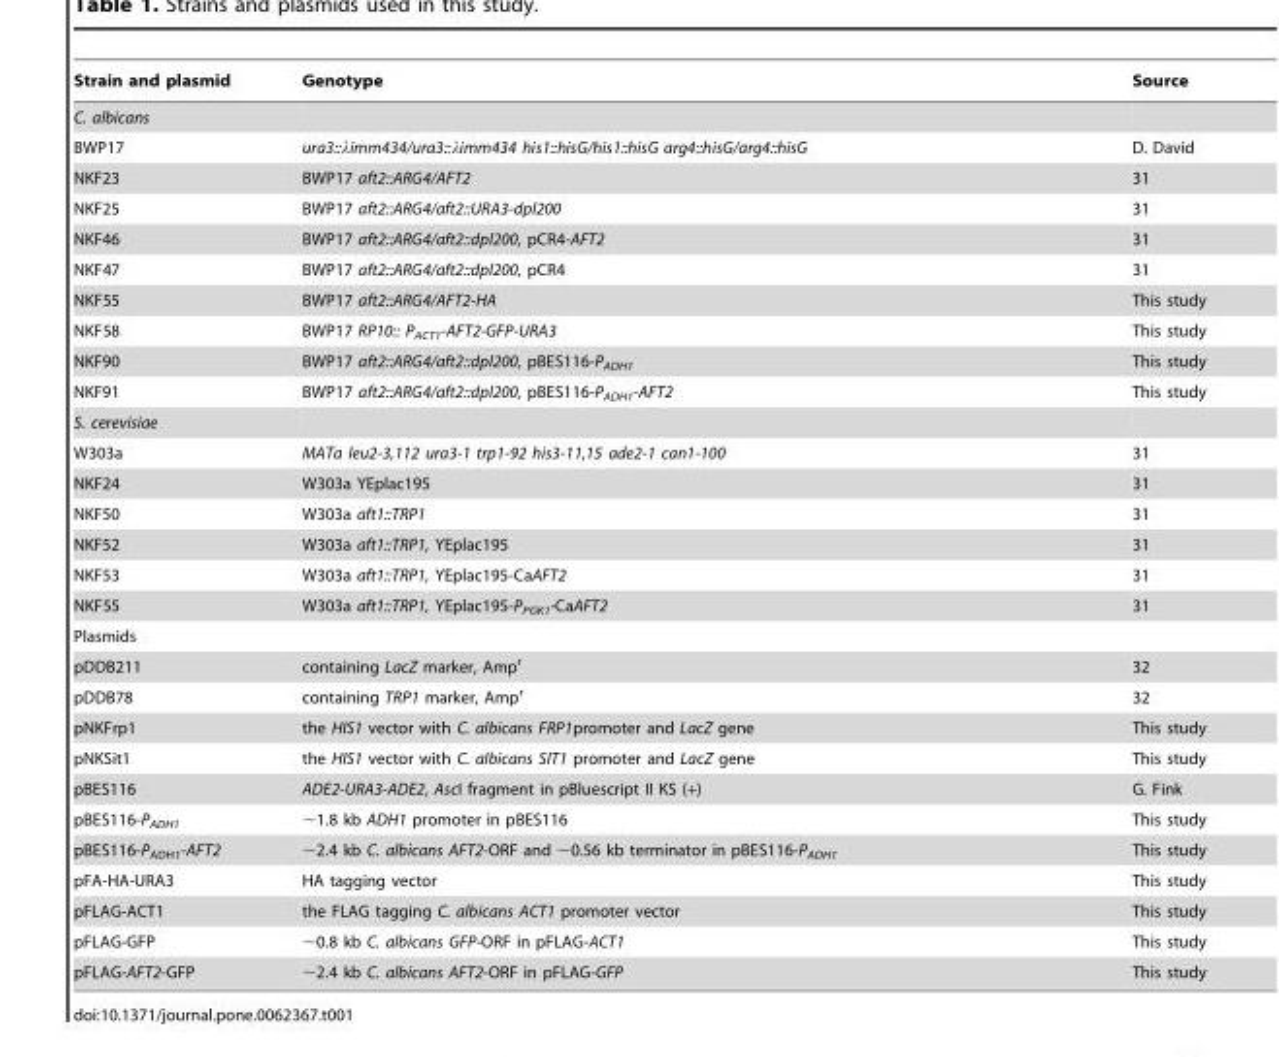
<table><thead><tr><td>Strain and plasmid</td><td>Genotype</td><td>Source</td></tr></thead><tbody><tr><td colspan="3">C. albicans</td></tr><tr><td>BWP17</td><td>ura3::λimm434/ura3::λimm434 his1::hisG/his1::hisG arg4::hisG/arg4::hisG</td><td>D. David</td></tr><tr><td>NKF23</td><td>BWP17 aft2::ARG4/AFT2</td><td>31</td></tr><tr><td>NKF25</td><td>BWP17 aft2::ARG4/aft2::URA3-dpl200</td><td>31</td></tr><tr><td>NKF46</td><td>BWP17 aft2::ARG4/aft2::dpl200, pCR4-AFT2</td><td>31</td></tr><tr><td>NKF47</td><td>BWP17 aft2::ARG4/aft2::dpl200, pCR4</td><td>31</td></tr><tr><td>NKF55</td><td>BWP17 aft2::ARG4/AFT2-HA</td><td>This study</td></tr><tr><td>NKF58</td><td>BWP17 RP10:: P<sub>ACT1</sub>-AFT2-GFP-URA3</td><td>This study</td></tr><tr><td>NKF90</td><td>BWP17 aft2::ARG4/aft2::dpl200, pBES116-P<sub>ADH1</sub></td><td>This study</td></tr><tr><td>NKF91</td><td>BWP17 aft2::ARG4/aft2::dpl200, pBES116-P<sub>ADH1</sub>-AFT2</td><td>This study</td></tr><tr><td colspan="3">S. cerevisiae</td></tr><tr><td>W303a</td><td>MATa leu2-3,112 ura3-1 trp1-92 his3-11,15 ade2-1 can1-100</td><td>31</td></tr><tr><td>NKF24</td><td>W303a YEplac195</td><td>31</td></tr><tr><td>NKF50</td><td>W303a aft1::TRP1</td><td>31</td></tr><tr><td>NKF52</td><td>W303a aft1::TRP1, YEplac195</td><td>31</td></tr><tr><td>NKF53</td><td>W303a aft1::TRP1, YEplac195-CaAFT2</td><td>31</td></tr><tr><td>NKF55</td><td>W303a aft1::TRP1, YEplac195-P<sub>PGK1</sub>-CaAFT2</td><td>31</td></tr><tr><td colspan="3">Plasmids</td></tr><tr><td>pDDB211</td><td>containing LacZ marker, Amp<sup>r</sup></td><td>32</td></tr><tr><td>pDDB78</td><td>containing TRP1 marker, Amp<sup>r</sup></td><td>32</td></tr><tr><td>pNKFrp1</td><td>the HIS1 vector with C. albicans FRP1promoter and LacZ gene</td><td>This study</td></tr><tr><td>pNKSit1</td><td>the HIS1 vector with C. albicans SIT1 promoter and LacZ gene</td><td>This study</td></tr><tr><td>pBES116</td><td>ADE2-URA3-ADE2, AscI fragment in pBluescript II KS (+)</td><td>G. Fink</td></tr><tr><td>pBES116-P<sub>ADH1</sub></td><td>∼1.8 kb ADH1 promoter in pBES116</td><td>This study</td></tr><tr><td>pBES116-P<sub>ADH1</sub>-AFT2</td><td>∼2.4 kb C. albicans AFT2-ORF and ∼0.56 kb terminator in pBES116-P<sub>ADH1</sub></td><td>This study</td></tr><tr><td>pFA-HA-URA3</td><td>HA tagging vector</td><td>This study</td></tr><tr><td>pFLAG-ACT1</td><td>the FLAG tagging C. albicans ACT1 promoter vector</td><td>This study</td></tr><tr><td>pFLAG-GFP</td><td>∼0.8 kb C. albicans GFP-ORF in pFLAG-ACT1</td><td>This study</td></tr><tr><td>pFLAG-AFT2-GFP</td><td>∼2.4 kb C. albicans AFT2-ORF in pFLAG-GFP</td><td>This study</td></tr></tbody></table>